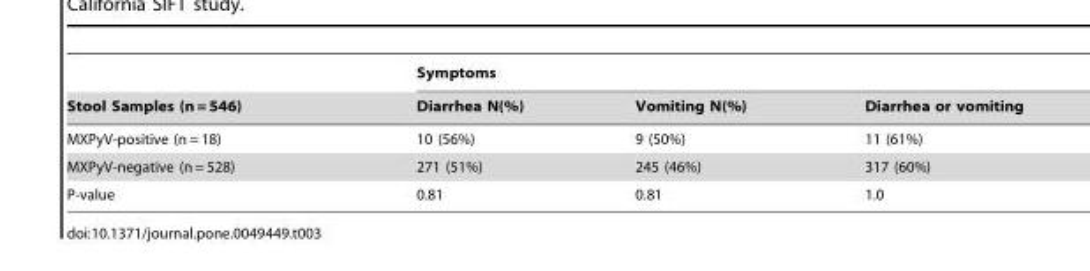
<table><thead><tr><td rowspan="2">Stool Samples (n = 546)</td><td colspan="3">Symptoms</td></tr><tr><td>Diarrhea N(%)</td><td>Vomiting N(%)</td><td>Diarrhea or vomiting</td></tr></thead><tbody><tr><td>MXPyV-positive (n = 18)</td><td>10 (56%)</td><td>9 (50%)</td><td>11 (61%)</td></tr><tr><td>MXPyV-negative (n = 528)</td><td>271 (51%)</td><td>245 (46%)</td><td>317 (60%)</td></tr><tr><td>P-value</td><td>0.81</td><td>0.81</td><td>1.0</td></tr></tbody></table>